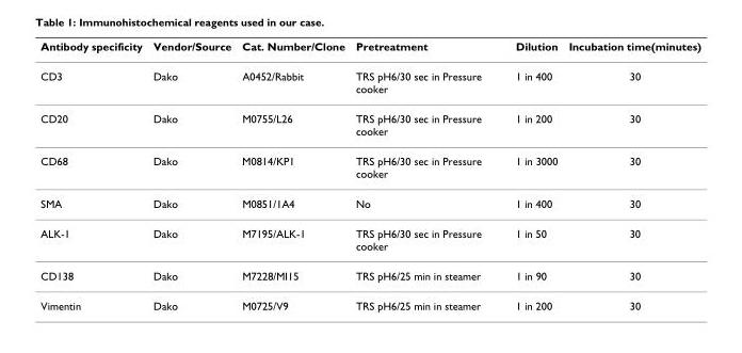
<table><thead><tr><td>Antibody specificity</td><td>Vendor/Source</td><td>Cat. Number/Clone</td><td>Pretreatment</td><td>Dilution</td><td>Incubation time(minutes)</td></tr></thead><tbody><tr><td>CD3</td><td>Dako</td><td>A0452/Rabbit</td><td>TRS pH6/30 sec in Pressure cooker</td><td>1 in 400</td><td>30</td></tr><tr><td>CD20</td><td>Dako</td><td>M0755/L26</td><td>TRS pH6/30 sec in Pressure cooker</td><td>1 in 200</td><td>30</td></tr><tr><td>CD68</td><td>Dako</td><td>M0814/KP1</td><td>TRS pH6/30 sec in Pressure cooker</td><td>1 in 3000</td><td>30</td></tr><tr><td>SMA</td><td>Dako</td><td>M0851/1A4</td><td>No</td><td>1 in 400</td><td>30</td></tr><tr><td>ALK-1</td><td>Dako</td><td>M7195/ALK-1</td><td>TRS pH6/30 sec in Pressure cooker</td><td>1 in 50</td><td>30</td></tr><tr><td>CD138</td><td>Dako</td><td>M7228/MI15</td><td>TRS pH6/25 min in steamer</td><td>1 in 90</td><td>30</td></tr><tr><td>Vimentin</td><td>Dako</td><td>M0725/V9</td><td>TRS pH6/25 min in steamer</td><td>1 in 200</td><td>30</td></tr></tbody></table>